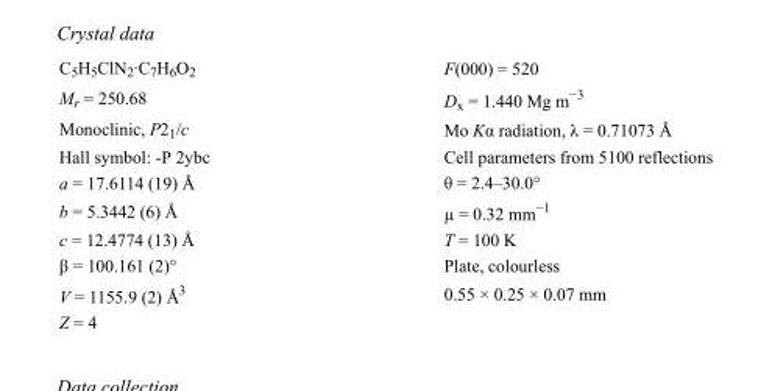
<table><tbody><tr><td>C<sub>5</sub>H<sub>5</sub>ClN<sub>2</sub>·C<sub>7</sub>H<sub>6</sub>O<sub>2</sub></td><td>F(000) = 520</td></tr><tr><td>M<sub>r</sub> = 250.68</td><td>D<sub>x</sub> = 1.440 Mg m<sup>−3</sup></td></tr><tr><td>Monoclinic, P2<sub>1</sub>/c</td><td>Mo Kα radiation, λ = 0.71073 Å</td></tr><tr><td>Hall symbol: -P 2ybc</td><td>Cell parameters from 5100 reflections</td></tr><tr><td>a = 17.6114 (19) Å</td><td>θ = 2.4–30.0°</td></tr><tr><td>b = 5.3442 (6) Å</td><td>µ = 0.32 mm<sup>−1</sup></td></tr><tr><td>c = 12.4774 (13) Å</td><td>T = 100 K</td></tr><tr><td>β = 100.161 (2)°</td><td>Plate, colourless</td></tr><tr><td>V = 1155.9 (2) Å<sup>3</sup></td><td>0.55 × 0.25 × 0.07 mm</td></tr><tr><td>Z = 4</td><td></td></tr></tbody></table>